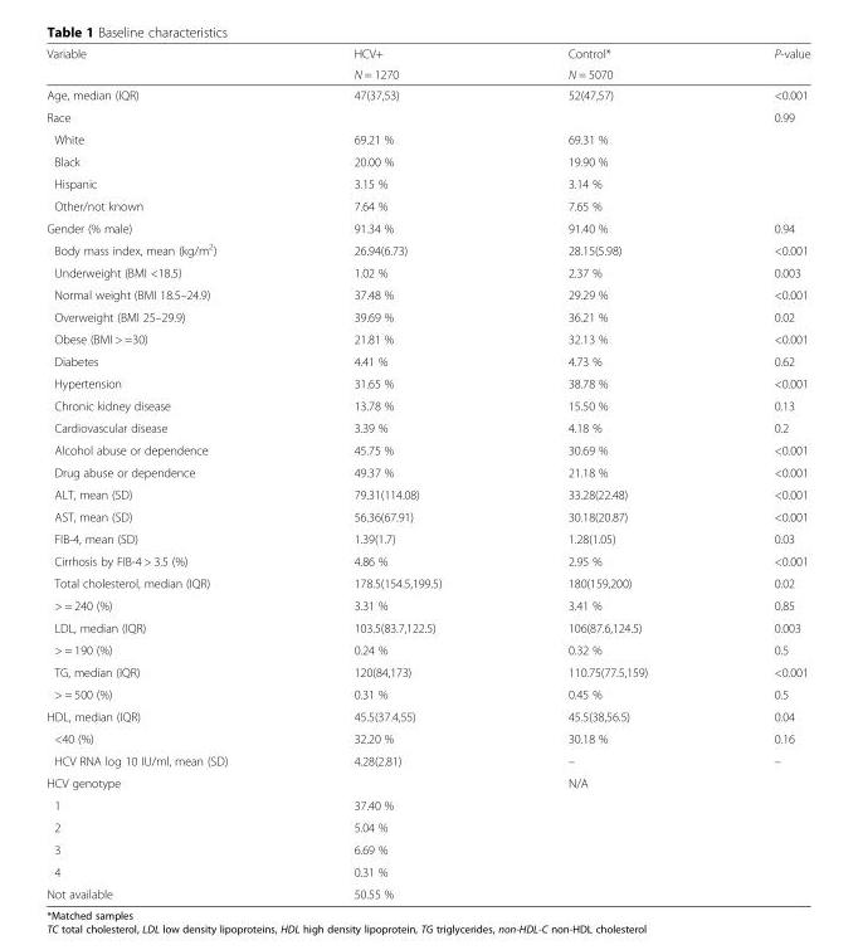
<table><thead><tr><td rowspan="2">Variable</td><td rowspan="2">HCV+ N = 1270</td><td rowspan="2">Control* N = 5070</td><td rowspan="2">P-value</td></tr><tr></tr></thead><tbody><tr><td>Age, median (IQR)</td><td>47(37,53)</td><td>52(47,57)</td><td>&lt;0.001</td></tr><tr><td>Race</td><td></td><td></td><td>0.99</td></tr><tr><td>White</td><td>69.21 %</td><td>69.31 %</td><td></td></tr><tr><td>Black</td><td>20.00 %</td><td>19.90 %</td><td></td></tr><tr><td>Hispanic</td><td>3.15 %</td><td>3.14 %</td><td></td></tr><tr><td>Other/not known</td><td>7.64 %</td><td>7.65 %</td><td></td></tr><tr><td>Gender (% male)</td><td>91.34 %</td><td>91.40 %</td><td>0.94</td></tr><tr><td>Body mass index, mean (kg/m<sup>2</sup>)</td><td>26.94(6.73)</td><td>28.15(5.98)</td><td>&lt;0.001</td></tr><tr><td>Underweight (BMI &lt;18.5)</td><td>1.02 %</td><td>2.37 %</td><td>0.003</td></tr><tr><td>Normal weight (BMI 18.5–24.9)</td><td>37.48 %</td><td>29.29 %</td><td>&lt;0.001</td></tr><tr><td>Overweight (BMI 25–29.9)</td><td>39.69 %</td><td>36.21 %</td><td>0.02</td></tr><tr><td>Obese (BMI &gt; =30)</td><td>21.81 %</td><td>32.13 %</td><td>&lt;0.001</td></tr><tr><td>Diabetes</td><td>4.41 %</td><td>4.73 %</td><td>0.62</td></tr><tr><td>Hypertension</td><td>31.65 %</td><td>38.78 %</td><td>&lt;0.001</td></tr><tr><td>Chronic kidney disease</td><td>13.78 %</td><td>15.50 %</td><td>0.13</td></tr><tr><td>Cardiovascular disease</td><td>3.39 %</td><td>4.18 %</td><td>0.2</td></tr><tr><td>Alcohol abuse or dependence</td><td>45.75 %</td><td>30.69 %</td><td>&lt;0.001</td></tr><tr><td>Drug abuse or dependence</td><td>49.37 %</td><td>21.18 %</td><td>&lt;0.001</td></tr><tr><td>ALT, mean (SD)</td><td>79.31(114.08)</td><td>33.28(22.48)</td><td>&lt;0.001</td></tr><tr><td>AST, mean (SD)</td><td>56.36(67.91)</td><td>30.18(20.87)</td><td>&lt;0.001</td></tr><tr><td>FIB-4, mean (SD)</td><td>1.39(1.7)</td><td>1.28(1.05)</td><td>0.03</td></tr><tr><td>Cirrhosis by FIB-4 &gt; 3.5 (%)</td><td>4.86 %</td><td>2.95 %</td><td>&lt;0.001</td></tr><tr><td>Total cholesterol, median (IQR)</td><td>178.5(154.5,199.5)</td><td>180(159,200)</td><td>0.02</td></tr><tr><td>&gt; = 240 (%)</td><td>3.31 %</td><td>3.41 %</td><td>0.85</td></tr><tr><td>LDL, median (IQR)</td><td>103.5(83.7,122.5)</td><td>106(87.6,124.5)</td><td>0.003</td></tr><tr><td>&gt; = 190 (%)</td><td>0.24 %</td><td>0.32 %</td><td>0.5</td></tr><tr><td>TG, median (IQR)</td><td>120(84,173)</td><td>110.75(77.5,159)</td><td>&lt;0.001</td></tr><tr><td>&gt; = 500 (%)</td><td>0.31 %</td><td>0.45 %</td><td>0.5</td></tr><tr><td>HDL, median (IQR)</td><td>45.5(37.4,55)</td><td>45.5(38,56.5)</td><td>0.04</td></tr><tr><td>&lt;40 (%)</td><td>32.20 %</td><td>30.18 %</td><td>0.16</td></tr><tr><td>HCV RNA log 10 IU/ml, mean (SD)</td><td>4.28(2.81)</td><td>–</td><td>–</td></tr><tr><td>HCV genotype</td><td></td><td>N/A</td><td></td></tr><tr><td>1</td><td>37.40 %</td><td></td><td></td></tr><tr><td>2</td><td>5.04 %</td><td></td><td></td></tr><tr><td>3</td><td>6.69 %</td><td></td><td></td></tr><tr><td>4</td><td>0.31 %</td><td></td><td></td></tr><tr><td>Not available</td><td>50.55 %</td><td></td><td></td></tr></tbody></table>